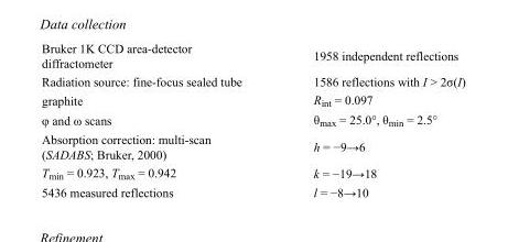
<table><tbody><tr><td>Bruker 1K CCD area-detector diffractometer</td><td>1958 independent reflections</td></tr><tr><td>Radiation source: fine-focus sealed tube</td><td>1586 reflections with I &gt; 2σ(I)</td></tr><tr><td>graphite</td><td>R<sub>int</sub> = 0.097</td></tr><tr><td>φ and ω scans</td><td>θ<sub>max</sub> = 25.0°, θ<sub>min</sub> = 2.5°</td></tr><tr><td>Absorption correction: multi-scan (SADABS; Bruker, 2000)</td><td>h = −9→6</td></tr><tr><td>T<sub>min</sub> = 0.923, T<sub>max</sub> = 0.942</td><td>k = −19→18</td></tr><tr><td>5436 measured reflections</td><td>l = −8→10</td></tr></tbody></table>